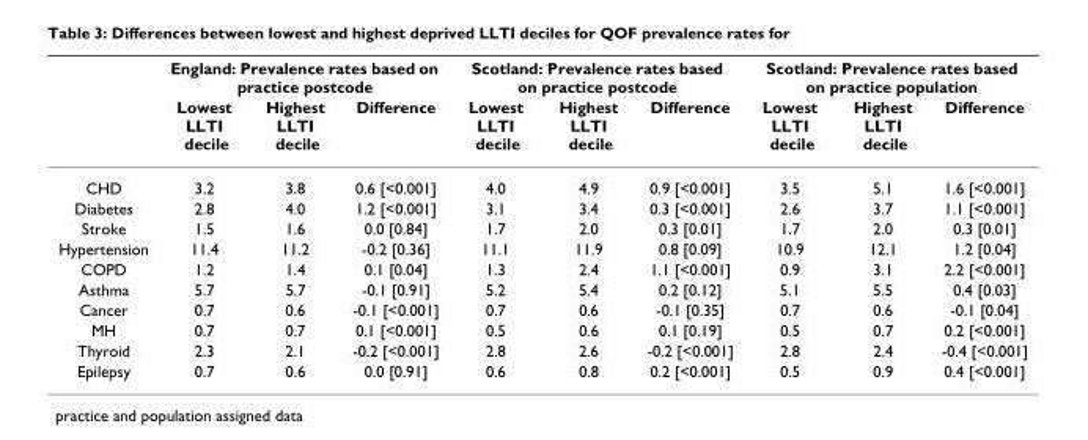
<table><thead><tr><td rowspan="2"></td><td colspan="3">England: Prevalence rates based on practice postcode</td><td colspan="3">Scotland: Prevalence rates based on practice postcode</td><td colspan="3">Scotland: Prevalence rates based on practice population</td></tr><tr><td>Lowest LLTI decile</td><td>Highest LLTI decile</td><td>Difference</td><td>Lowest LLTI decile</td><td>Highest LLTI decile</td><td>Difference</td><td>Lowest LLTI decile</td><td>Highest LLTI decile</td><td>Difference</td></tr></thead><tbody><tr><td>CHD</td><td>3.2</td><td>3.8</td><td>0.6 [&lt;0.001]</td><td>4.0</td><td>4.9</td><td>0.9 [&lt;0.001]</td><td>3.5</td><td>5.1</td><td>1.6 [&lt;0.001]</td></tr><tr><td>Diabetes</td><td>2.8</td><td>4.0</td><td>1.2 [&lt;0.001]</td><td>3.1</td><td>3.4</td><td>0.3 [&lt;0.001]</td><td>2.6</td><td>3.7</td><td>1.1 [&lt;0.001]</td></tr><tr><td>Stroke</td><td>1.5</td><td>1.6</td><td>0.0 [0.84]</td><td>1.7</td><td>2.0</td><td>0.3 [0.01]</td><td>1.7</td><td>2.0</td><td>0.3 [0.01]</td></tr><tr><td>Hypertension</td><td>11.4</td><td>11.2</td><td>-0.2 [0.36]</td><td>11.1</td><td>11.9</td><td>0.8 [0.09]</td><td>10.9</td><td>12.1</td><td>1.2 [0.04]</td></tr><tr><td>COPD</td><td>1.2</td><td>1.4</td><td>0.1 [0.04]</td><td>1.3</td><td>2.4</td><td>1.1 [&lt;0.001]</td><td>0.9</td><td>3.1</td><td>2.2 [&lt;0.001]</td></tr><tr><td>Asthma</td><td>5.7</td><td>5.7</td><td>-0.1 [0.91]</td><td>5.2</td><td>5.4</td><td>0.2 [0.12]</td><td>5.1</td><td>5.5</td><td>0.4 [0.03]</td></tr><tr><td>Cancer</td><td>0.7</td><td>0.6</td><td>-0.1 [&lt;0.001]</td><td>0.7</td><td>0.6</td><td>-0.1 [0.35]</td><td>0.7</td><td>0.6</td><td>-0.1 [0.04]</td></tr><tr><td>MH</td><td>0.7</td><td>0.7</td><td>0.1 [&lt;0.001]</td><td>0.5</td><td>0.6</td><td>0.1 [0.19]</td><td>0.5</td><td>0.7</td><td>0.2 [&lt;0.001]</td></tr><tr><td>Thyroid</td><td>2.3</td><td>2.1</td><td>-0.2 [&lt;0.001]</td><td>2.8</td><td>2.6</td><td>-0.2 [&lt;0.001]</td><td>2.8</td><td>2.4</td><td>-0.4 [&lt;0.001]</td></tr><tr><td>Epilepsy</td><td>0.7</td><td>0.6</td><td>0.0 [0.91]</td><td>0.6</td><td>0.8</td><td>0.2 [&lt;0.001]</td><td>0.5</td><td>0.9</td><td>0.4 [&lt;0.001]</td></tr></tbody></table>